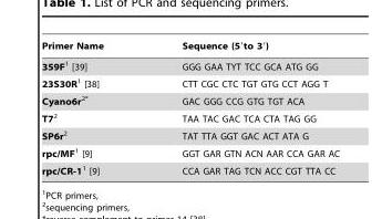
<table><thead><tr><td>Primer Name</td><td>Sequence (5′to 3′)</td></tr></thead><tbody><tr><td>359F1 [39]</td><td>GGG GAA TYT TCC GCA ATG GG</td></tr><tr><td>23S30R1 [38]</td><td>CTT CGC CTC TGT GTG CCT AGG T</td></tr><tr><td>Cyano6r<sup>2</sup>*</td><td>GAC GGG CCG GTG TGT ACA</td></tr><tr><td>T72</td><td>TAA TAC GAC TCA CTA TAG GG</td></tr><tr><td>SP6r2</td><td>TAT TTA GGT GAC ACT ATA G</td></tr><tr><td>rpc/MF1 [9]</td><td>GGT GAR GTN ACN AAR CCA GAR AC</td></tr><tr><td>rpc/CR-11 [9]</td><td>CCA GAR TAG TCN ACC CGT TTA CC</td></tr></tbody></table>